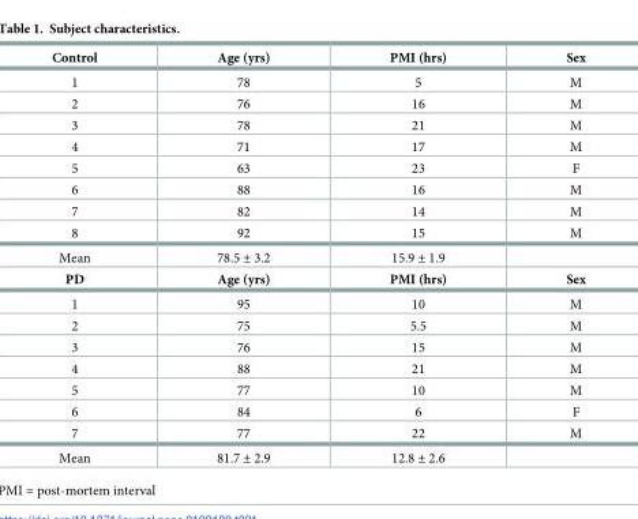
<table><tbody><tr><td>Control</td><td>Age (yrs)</td><td>PMI (hrs)</td><td>Sex</td></tr><tr><td>1</td><td>78</td><td>5</td><td>M</td></tr><tr><td>2</td><td>76</td><td>16</td><td>M</td></tr><tr><td>3</td><td>78</td><td>21</td><td>M</td></tr><tr><td>4</td><td>71</td><td>17</td><td>M</td></tr><tr><td>5</td><td>63</td><td>23</td><td>F</td></tr><tr><td>6</td><td>88</td><td>16</td><td>M</td></tr><tr><td>7</td><td>82</td><td>14</td><td>M</td></tr><tr><td>8</td><td>92</td><td>15</td><td>M</td></tr><tr><td>Mean</td><td>78.5 ± 3.2</td><td>15.9 ± 1.9</td><td></td></tr><tr><td>PD</td><td>Age (yrs)</td><td>PMI (hrs)</td><td>Sex</td></tr><tr><td>1</td><td>95</td><td>10</td><td>M</td></tr><tr><td>2</td><td>75</td><td>5.5</td><td>M</td></tr><tr><td>3</td><td>76</td><td>15</td><td>M</td></tr><tr><td>4</td><td>88</td><td>21</td><td>M</td></tr><tr><td>5</td><td>77</td><td>10</td><td>M</td></tr><tr><td>6</td><td>84</td><td>6</td><td>F</td></tr><tr><td>7</td><td>77</td><td>22</td><td>M</td></tr><tr><td>Mean</td><td>81.7 ± 2.9</td><td>12.8 ± 2.6</td><td></td></tr></tbody></table>